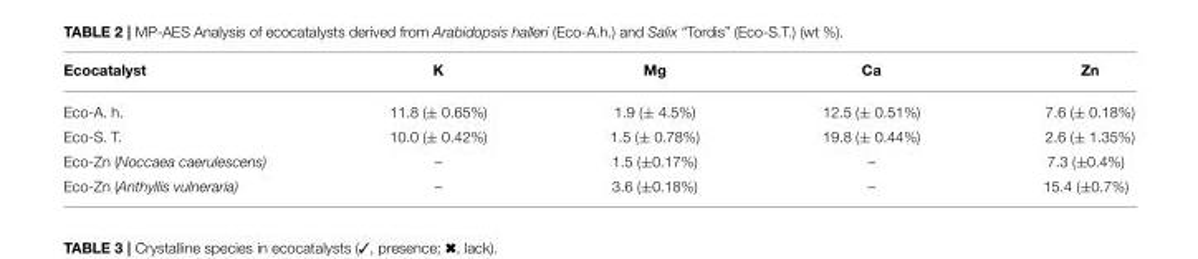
<table><thead><tr><td>Ecocatalyst</td><td>K</td><td>Mg</td><td>Ca</td><td>Zn</td></tr></thead><tbody><tr><td>Eco-A. h.</td><td>11.8 (± 0.65%)</td><td>1.9 (± 4.5%)</td><td>12.5 (± 0.51%)</td><td>7.6 (± 0.18%)</td></tr><tr><td>Eco-S. T.</td><td>10.0 (± 0.42%)</td><td>1.5 (± 0.78%)</td><td>19.8 (± 0.44%)</td><td>2.6 (± 1.35%)</td></tr><tr><td>Eco-Zn (Noccaea caerulescens)</td><td>–</td><td>1.5 (±0.17%)</td><td>–</td><td>7.3 (±0.4%)</td></tr><tr><td>Eco-Zn (Anthyllis vulneraria)</td><td>–</td><td>3.6 (±0.18%)</td><td>–</td><td>15.4 (±0.7%)</td></tr></tbody></table>